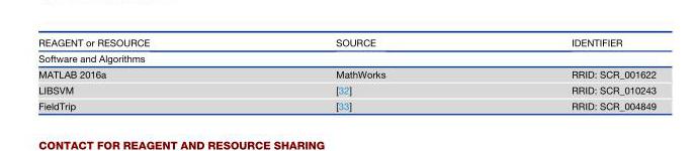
<table><thead><tr><td>REAGENT or RESOURCE</td><td>SOURCE</td><td>IDENTIFIER</td></tr></thead><tbody><tr><td colspan="3">Software and Algorithms</td></tr><tr><td>MATLAB 2016a</td><td>MathWorks</td><td>RRID: SCR_001622</td></tr><tr><td>LIBSVM</td><td>[32]</td><td>RRID: SCR_010243</td></tr><tr><td>FieldTrip</td><td>[33]</td><td>RRID: SCR_004849</td></tr></tbody></table>